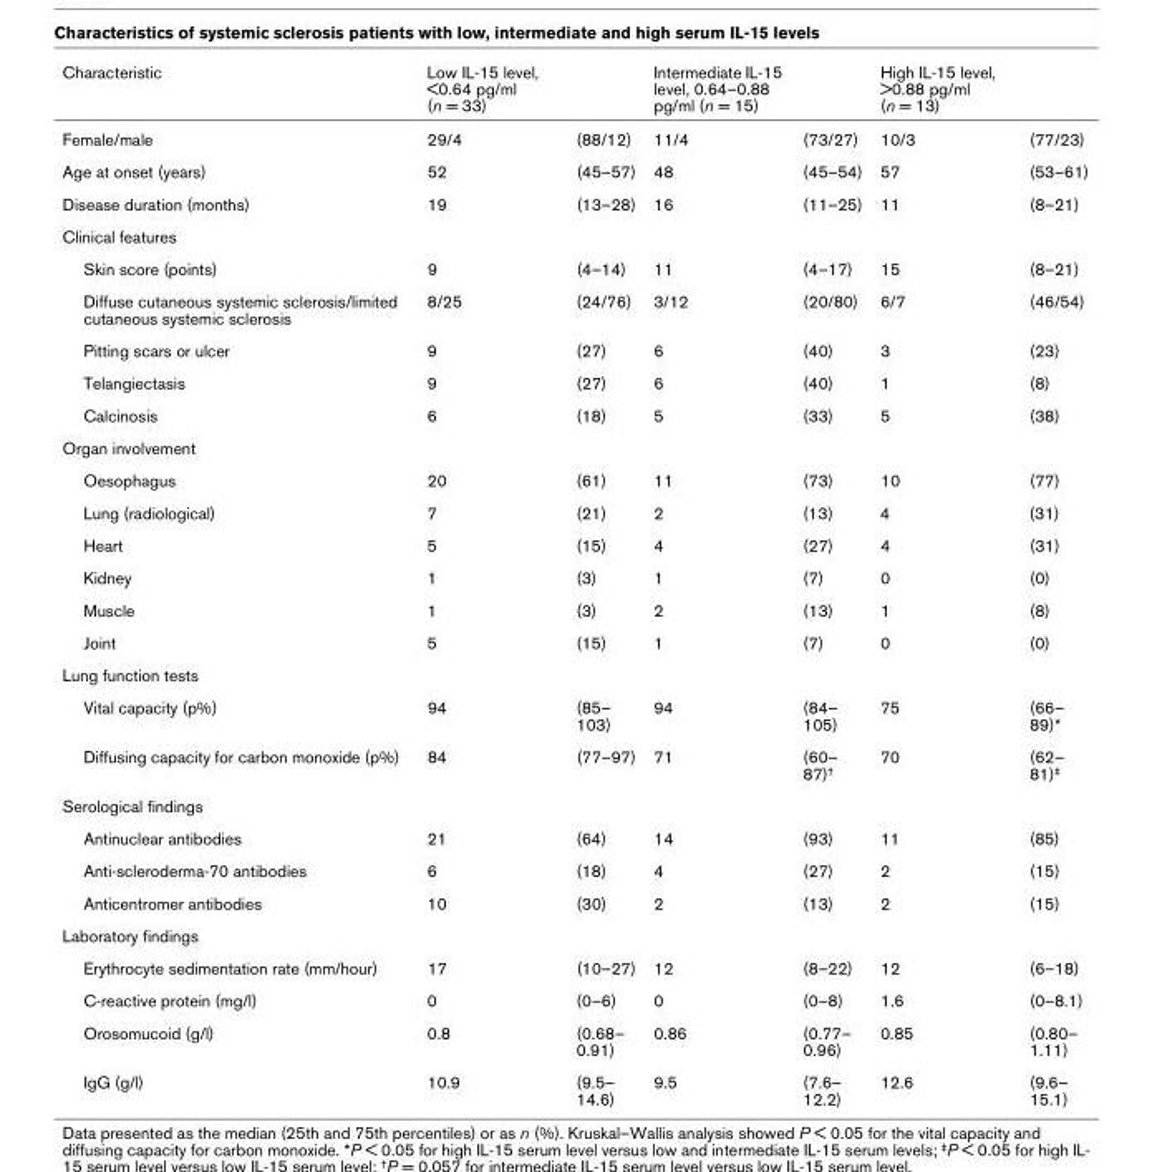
<table><thead><tr><td>Characteristic</td><td>Low IL-15 level, &lt;0.64 pg/ml (n = 33)</td><td></td><td>Intermediate IL-15 level, 0.64–0.88 pg/ml (n = 15)</td><td></td><td>High IL-15 level, &gt;0.88 pg/ml (n = 13)</td><td></td></tr></thead><tbody><tr><td>Female/male</td><td>29/4</td><td>(88/12)</td><td>11/4</td><td>(73/27)</td><td>10/3</td><td>(77/23)</td></tr><tr><td>Age at onset (years)</td><td>52</td><td>(45–57)</td><td>48</td><td>(45–54)</td><td>57</td><td>(53–61)</td></tr><tr><td>Disease duration (months)</td><td>19</td><td>(13–28)</td><td>16</td><td>(11–25)</td><td>11</td><td>(8–21)</td></tr><tr><td colspan="7">Clinical features</td></tr><tr><td>Skin score (points)</td><td>9</td><td>(4–14)</td><td>11</td><td>(4–17)</td><td>15</td><td>(8–21)</td></tr><tr><td>Diffuse cutaneous systemic sclerosis/limited cutaneous systemic sclerosis</td><td>8/25</td><td>(24/76)</td><td>3/12</td><td>(20/80)</td><td>6/7</td><td>(46/54)</td></tr><tr><td>Pitting scars or ulcer</td><td>9</td><td>(27)</td><td>6</td><td>(40)</td><td>3</td><td>(23)</td></tr><tr><td>Telangiectasis</td><td>9</td><td>(27)</td><td>6</td><td>(40)</td><td>1</td><td>(8)</td></tr><tr><td>Calcinosis</td><td>6</td><td>(18)</td><td>5</td><td>(33)</td><td>5</td><td>(38)</td></tr><tr><td colspan="7">Organ involvement</td></tr><tr><td>Oesophagus</td><td>20</td><td>(61)</td><td>11</td><td>(73)</td><td>10</td><td>(77)</td></tr><tr><td>Lung (radiological)</td><td>7</td><td>(21)</td><td>2</td><td>(13)</td><td>4</td><td>(31)</td></tr><tr><td>Heart</td><td>5</td><td>(15)</td><td>4</td><td>(27)</td><td>4</td><td>(31)</td></tr><tr><td>Kidney</td><td>1</td><td>(3)</td><td>1</td><td>(7)</td><td>0</td><td>(0)</td></tr><tr><td>Muscle</td><td>1</td><td>(3)</td><td>2</td><td>(13)</td><td>1</td><td>(8)</td></tr><tr><td>Joint</td><td>5</td><td>(15)</td><td>1</td><td>(7)</td><td>0</td><td>(0)</td></tr><tr><td colspan="7">Lung function tests</td></tr><tr><td>Vital capacity (p%)</td><td>94</td><td>(85– 103)</td><td>94</td><td>(84– 105)</td><td>75</td><td>(66– 89)*</td></tr><tr><td>Diffusing capacity for carbon monoxide (p%)</td><td>84</td><td>(77–97)</td><td>71</td><td>(60– 87)<sup>†</sup></td><td>70</td><td>(62– 81)<sup>‡</sup></td></tr><tr><td colspan="7">Serological findings</td></tr><tr><td>Antinuclear antibodies</td><td>21</td><td>(64)</td><td>14</td><td>(93)</td><td>11</td><td>(85)</td></tr><tr><td>Anti-scleroderma-70 antibodies</td><td>6</td><td>(18)</td><td>4</td><td>(27)</td><td>2</td><td>(15)</td></tr><tr><td>Anticentromer antibodies</td><td>10</td><td>(30)</td><td>2</td><td>(13)</td><td>2</td><td>(15)</td></tr><tr><td colspan="7">Laboratory findings</td></tr><tr><td>Erythrocyte sedimentation rate (mm/hour)</td><td>17</td><td>(10–27)</td><td>12</td><td>(8–22)</td><td>12</td><td>(6–18)</td></tr><tr><td>C-reactive protein (mg/l)</td><td>0</td><td>(0–6)</td><td>0</td><td>(0–8)</td><td>1.6</td><td>(0–8.1)</td></tr><tr><td>Orosomucoid (g/l)</td><td>0.8</td><td>(0.68– 0.91)</td><td>0.86</td><td>(0.77– 0.96)</td><td>0.85</td><td>(0.80– 1.11)</td></tr><tr><td>IgG (g/l)</td><td>10.9</td><td>(9.5– 14.6)</td><td>9.5</td><td>(7.6– 12.2)</td><td>12.6</td><td>(9.6– 15.1)</td></tr></tbody></table>